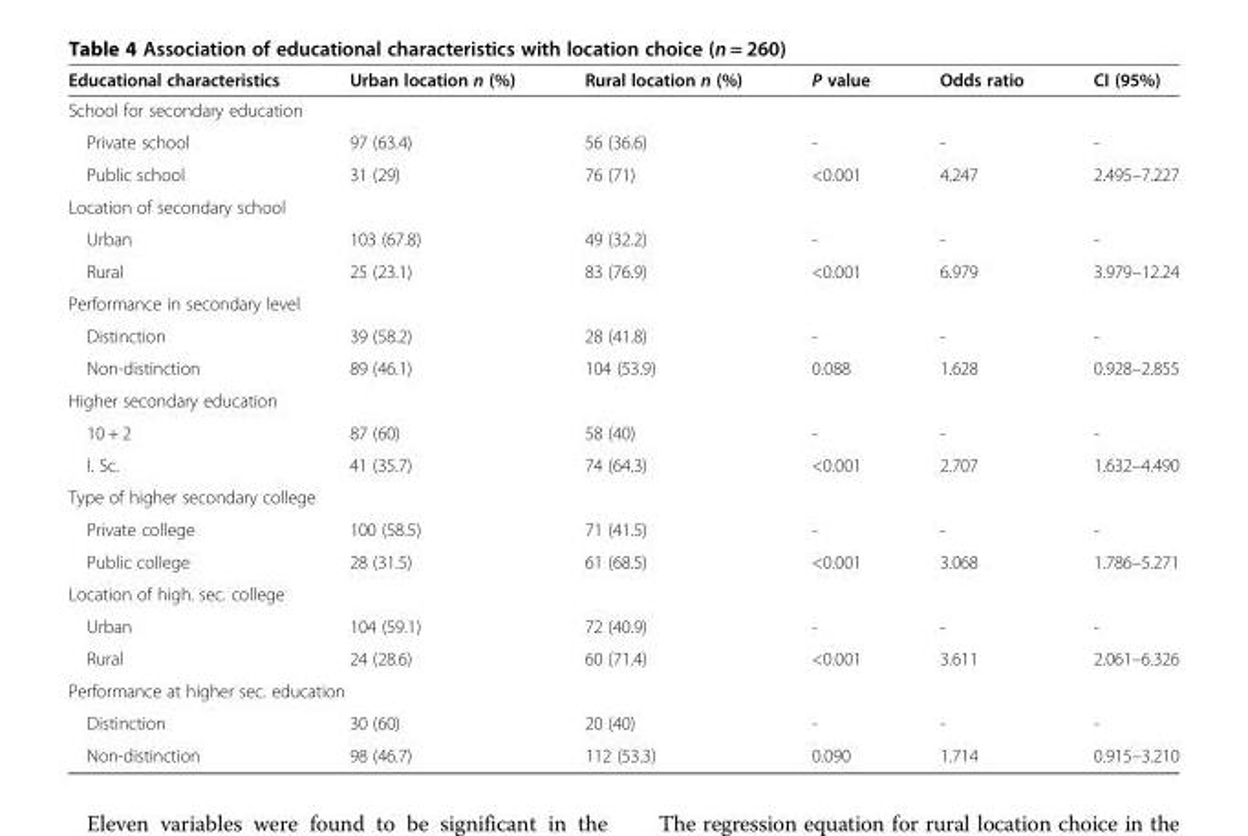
<table><thead><tr><td>Educational characteristics</td><td>Urban location n (%)</td><td>Rural location n (%)</td><td>P value</td><td>Odds ratio</td><td>CI (95%)</td></tr></thead><tbody><tr><td colspan="6">School for secondary education</td></tr><tr><td>Private school</td><td>97 (63.4)</td><td>56 (36.6)</td><td>-</td><td>-</td><td>-</td></tr><tr><td>Public school</td><td>31 (29)</td><td>76 (71)</td><td>&lt;0.001</td><td>4.247</td><td>2.495–7.227</td></tr><tr><td colspan="6">Location of secondary school</td></tr><tr><td>Urban</td><td>103 (67.8)</td><td>49 (32.2)</td><td>-</td><td>-</td><td>-</td></tr><tr><td>Rural</td><td>25 (23.1)</td><td>83 (76.9)</td><td>&lt;0.001</td><td>6.979</td><td>3.979–12.24</td></tr><tr><td colspan="6">Performance in secondary level</td></tr><tr><td>Distinction</td><td>39 (58.2)</td><td>28 (41.8)</td><td>-</td><td>-</td><td>-</td></tr><tr><td>Non-distinction</td><td>89 (46.1)</td><td>104 (53.9)</td><td>0.088</td><td>1.628</td><td>0.928–2.855</td></tr><tr><td colspan="6">Higher secondary education</td></tr><tr><td>10 + 2</td><td>87 (60)</td><td>58 (40)</td><td>-</td><td>-</td><td>-</td></tr><tr><td>I. Sc.</td><td>41 (35.7)</td><td>74 (64.3)</td><td>&lt;0.001</td><td>2.707</td><td>1.632–4.490</td></tr><tr><td colspan="6">Type of higher secondary college</td></tr><tr><td>Private college</td><td>100 (58.5)</td><td>71 (41.5)</td><td>-</td><td>-</td><td>-</td></tr><tr><td>Public college</td><td>28 (31.5)</td><td>61 (68.5)</td><td>&lt;0.001</td><td>3.068</td><td>1.786–5.271</td></tr><tr><td colspan="6">Location of high. sec. college</td></tr><tr><td>Urban</td><td>104 (59.1)</td><td>72 (40.9)</td><td>-</td><td>-</td><td>-</td></tr><tr><td>Rural</td><td>24 (28.6)</td><td>60 (71.4)</td><td>&lt;0.001</td><td>3.611</td><td>2.061–6.326</td></tr><tr><td colspan="6">Performance at higher sec. education</td></tr><tr><td>Distinction</td><td>30 (60)</td><td>20 (40)</td><td>-</td><td>-</td><td>-</td></tr><tr><td>Non-distinction</td><td>98 (46.7)</td><td>112 (53.3)</td><td>0.090</td><td>1.714</td><td>0.915–3.210</td></tr></tbody></table>